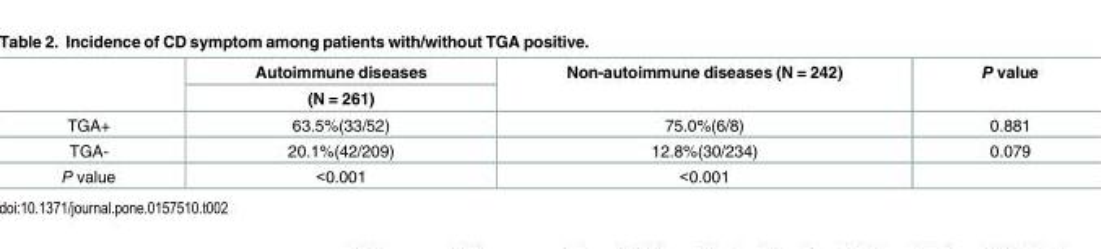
<table><thead><tr><td rowspan="2"></td><td rowspan="2">Autoimmune diseases (N = 261)</td><td rowspan="2">Non-autoimmune diseases (N = 242)</td><td rowspan="2">P value</td></tr><tr></tr></thead><tbody><tr><td>TGA+</td><td>63.5%(33/52)</td><td>75.0%(6/8)</td><td>0.881</td></tr><tr><td>TGA-</td><td>20.1%(42/209)</td><td>12.8%(30/234)</td><td>0.079</td></tr><tr><td>P value</td><td>&lt;0.001</td><td>&lt;0.001</td><td></td></tr></tbody></table>